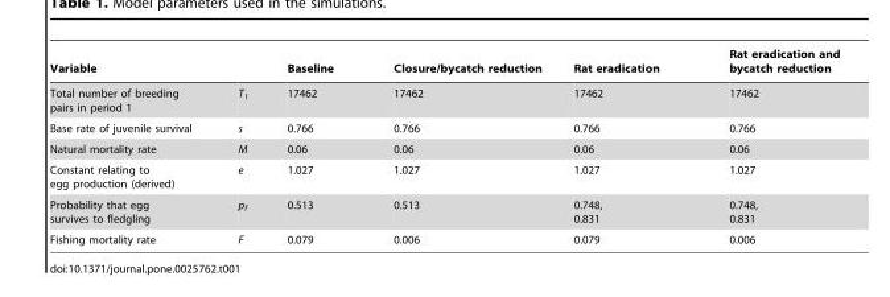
<table><thead><tr><td>Variable</td><td></td><td>Baseline</td><td>Closure/bycatch reduction</td><td>Rat eradication</td><td>Rat eradication and bycatch reduction</td></tr></thead><tbody><tr><td>Total number of breeding pairs in period 1</td><td>T<sub>1</sub></td><td>17462</td><td>17462</td><td>17462</td><td>17462</td></tr><tr><td>Base rate of juvenile survival</td><td>s</td><td>0.766</td><td>0.766</td><td>0.766</td><td>0.766</td></tr><tr><td>Natural mortality rate</td><td>M</td><td>0.06</td><td>0.06</td><td>0.06</td><td>0.06</td></tr><tr><td>Constant relating to egg production (derived)</td><td>e</td><td>1.027</td><td>1.027</td><td>1.027</td><td>1.027</td></tr><tr><td>Probability that egg survives to fledgling</td><td>p<sub>f</sub></td><td>0.513</td><td>0.513</td><td>0.748, 0.831</td><td>0.748, 0.831</td></tr><tr><td>Fishing mortality rate</td><td>F</td><td>0.079</td><td>0.006</td><td>0.079</td><td>0.006</td></tr></tbody></table>